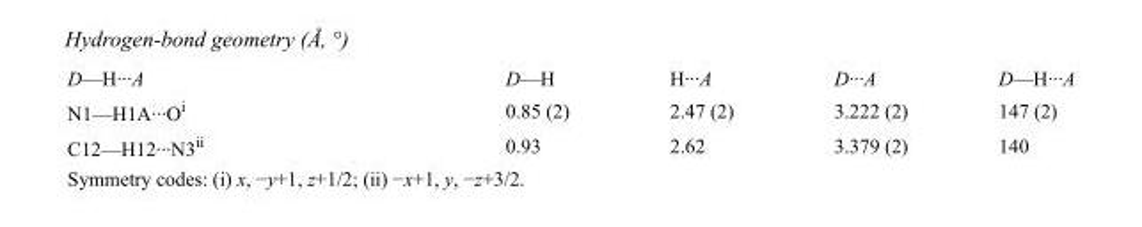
<table><tbody><tr><td>D—H···A</td><td>D—H</td><td>H···A</td><td>D···A</td><td>D—H···A</td></tr><tr><td>N1—H1A···O<sup>i</sup></td><td>0.85 (2)</td><td>2.47 (2)</td><td>3.222 (2)</td><td>147 (2)</td></tr><tr><td>C12—H12···N3<sup>ii</sup></td><td>0.93</td><td>2.62</td><td>3.379 (2)</td><td>140</td></tr></tbody></table>